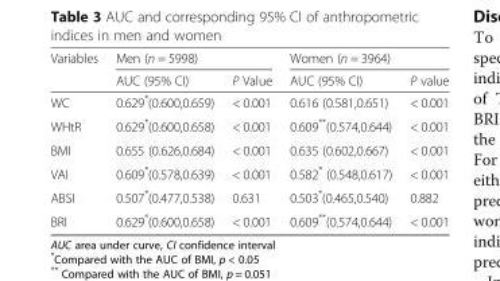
<table><thead><tr><td rowspan="2">Variables</td><td colspan="2">Men (n = 5998)</td><td colspan="2">Women (n = 3964)</td></tr><tr><td>AUC (95% CI)</td><td>P Value</td><td>AUC (95% CI)</td><td>P value</td></tr></thead><tbody><tr><td>WC</td><td>0.629*(0.600,0.659)</td><td>&lt; 0.001</td><td>0.616 (0.581,0.651)</td><td>&lt; 0.001</td></tr><tr><td>WHtR</td><td>0.629*(0.600,0.658)</td><td>&lt; 0.001</td><td>0.609**(0.574,0.644)</td><td>&lt; 0.001</td></tr><tr><td>BMI</td><td>0.655 (0.626,0.684)</td><td>&lt; 0.001</td><td>0.635 (0.602,0.667)</td><td>&lt; 0.001</td></tr><tr><td>VAI</td><td>0.609*(0.578,0.639)</td><td>&lt; 0.001</td><td>0.582* (0.548,0.617)</td><td>&lt; 0.001</td></tr><tr><td>ABSI</td><td>0.507*(0.477,0.538)</td><td>0.631</td><td>0.503*(0.465,0.540)</td><td>0.882</td></tr><tr><td>BRI</td><td>0.629*(0.600,0.658)</td><td>&lt; 0.001</td><td>0.609**(0.574,0.644)</td><td>&lt; 0.001</td></tr></tbody></table>